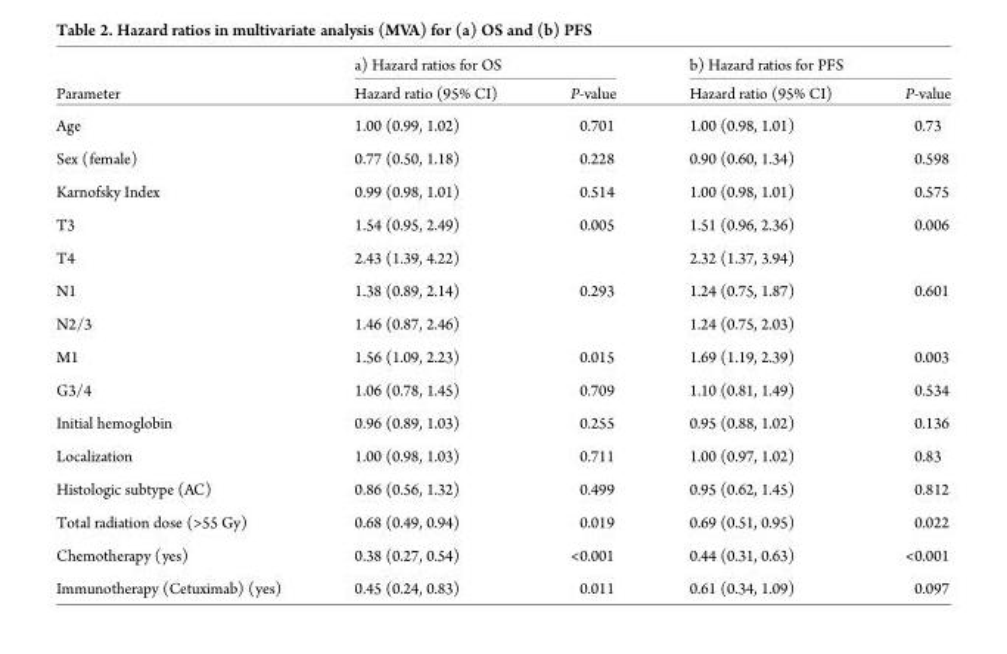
<table><thead><tr><td rowspan="2">Parameter</td><td colspan="2">a) Hazard ratios for OS</td><td colspan="2">b) Hazard ratios for PFS</td></tr><tr><td>Hazard ratio (95% CI)</td><td>P-value</td><td>Hazard ratio (95% CI)</td><td>P-value</td></tr></thead><tbody><tr><td>Age</td><td>1.00 (0.99, 1.02)</td><td>0.701</td><td>1.00 (0.98, 1.01)</td><td>0.73</td></tr><tr><td>Sex (female)</td><td>0.77 (0.50, 1.18)</td><td>0.228</td><td>0.90 (0.60, 1.34)</td><td>0.598</td></tr><tr><td>Karnofsky Index</td><td>0.99 (0.98, 1.01)</td><td>0.514</td><td>1.00 (0.98, 1.01)</td><td>0.575</td></tr><tr><td>T3</td><td>1.54 (0.95, 2.49)</td><td rowspan="2">0.005</td><td>1.51 (0.96, 2.36)</td><td rowspan="2">0.006</td></tr><tr><td>T4</td><td>2.43 (1.39, 4.22)</td><td>2.32 (1.37, 3.94)</td></tr><tr><td>N1</td><td>1.38 (0.89, 2.14)</td><td rowspan="2">0.293</td><td>1.24 (0.75, 1.87)</td><td rowspan="2">0.601</td></tr><tr><td>N2/3</td><td>1.46 (0.87, 2.46)</td><td>1.24 (0.75, 2.03)</td></tr><tr><td>M1</td><td>1.56 (1.09, 2.23)</td><td>0.015</td><td>1.69 (1.19, 2.39)</td><td>0.003</td></tr><tr><td>G3/4</td><td>1.06 (0.78, 1.45)</td><td>0.709</td><td>1.10 (0.81, 1.49)</td><td>0.534</td></tr><tr><td>Initial hemoglobin</td><td>0.96 (0.89, 1.03)</td><td>0.255</td><td>0.95 (0.88, 1.02)</td><td>0.136</td></tr><tr><td>Localization</td><td>1.00 (0.98, 1.03)</td><td>0.711</td><td>1.00 (0.97, 1.02)</td><td>0.83</td></tr><tr><td>Histologic subtype (AC)</td><td>0.86 (0.56, 1.32)</td><td>0.499</td><td>0.95 (0.62, 1.45)</td><td>0.812</td></tr><tr><td>Total radiation dose (&gt;55 Gy)</td><td>0.68 (0.49, 0.94)</td><td>0.019</td><td>0.69 (0.51, 0.95)</td><td>0.022</td></tr><tr><td>Chemotherapy (yes)</td><td>0.38 (0.27, 0.54)</td><td>&lt;0.001</td><td>0.44 (0.31, 0.63)</td><td>&lt;0.001</td></tr><tr><td>Immunotherapy (Cetuximab) (yes)</td><td>0.45 (0.24, 0.83)</td><td>0.011</td><td>0.61 (0.34, 1.09)</td><td>0.097</td></tr></tbody></table>